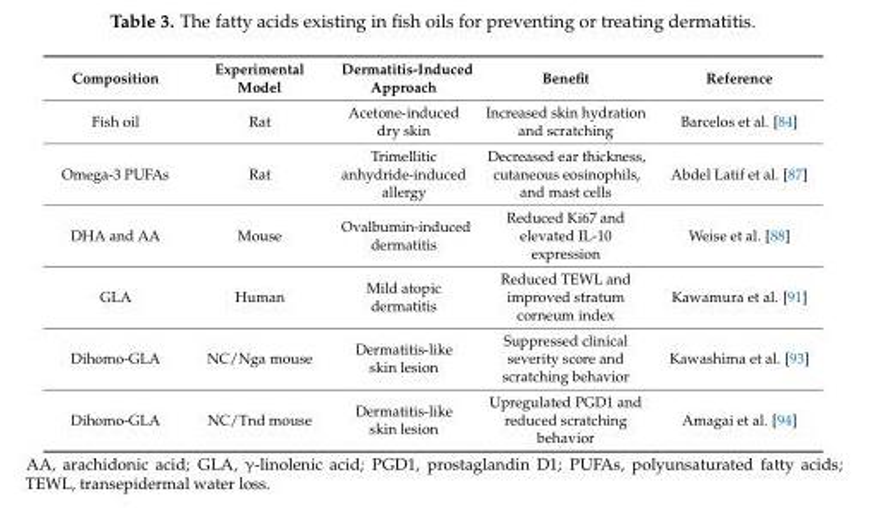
<table><thead><tr><td>Composition</td><td>Experimental Model</td><td>Dermatitis-Induced Approach</td><td>Benefit</td><td>Reference</td></tr></thead><tbody><tr><td>Fish oil</td><td>Rat</td><td>Acetone-induced dry skin</td><td>Increased skin hydration and scratching</td><td>Barcelos et al. [84]</td></tr><tr><td>Omega-3 PUFAs</td><td>Rat</td><td>Trimellitic anhydride-induced allergy</td><td>Decreased ear thickness, cutaneous eosinophils, and mast cells</td><td>Abdel Latif et al. [87]</td></tr><tr><td>DHA and AA</td><td>Mouse</td><td>Ovalbumin-induced dermatitis</td><td>Reduced Ki67 and elevated IL-10 expression</td><td>Weise et al. [88]</td></tr><tr><td>GLA</td><td>Human</td><td>Mild atopic dermatitis</td><td>Reduced TEWL and improved stratum corneum index</td><td>Kawamura et al. [91]</td></tr><tr><td>Dihomo-GLA</td><td>NC/Nga mouse</td><td>Dermatitis-like skin lesion</td><td>Suppressed clinical severity score and scratching behavior</td><td>Kawashima et al. [93]</td></tr><tr><td>Dihomo-GLA</td><td>NC/Tnd mouse</td><td>Dermatitis-like skin lesion</td><td>Upregulated PGD1 and reduced scratching behavior</td><td>Amagai et al. [94]</td></tr></tbody></table>